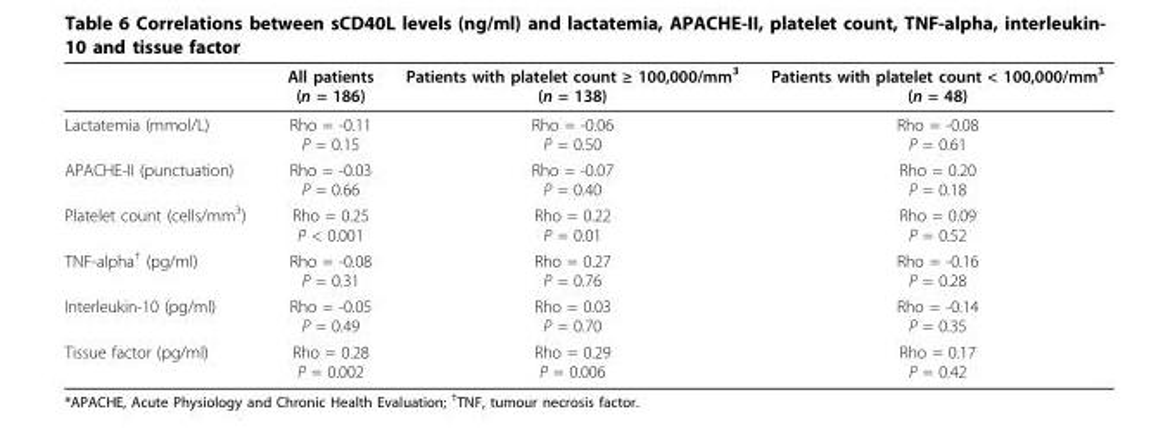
<table><thead><tr><td></td><td>All patients (n = 186)</td><td>Patients with platelet count ≥ 100,000/mm<sup>3</sup> (n = 138)</td><td>Patients with platelet count &lt; 100,000/mm<sup>3</sup> (n = 48)</td></tr></thead><tbody><tr><td>Lactatemia (mmol/L)</td><td>Rho = -0.11 P = 0.15</td><td>Rho = -0.06 P = 0.50</td><td>Rho = -0.08 P = 0.61</td></tr><tr><td>APACHE-II (punctuation)</td><td>Rho = -0.03 P = 0.66</td><td>Rho = -0.07 P = 0.40</td><td>Rho = 0.20 P = 0.18</td></tr><tr><td>Platelet count (cells/mm<sup>3</sup>)</td><td>Rho = 0.25 P &lt; 0.001</td><td>Rho = 0.22 P = 0.01</td><td>Rho = 0.09 P = 0.52</td></tr><tr><td>TNF-alpha<sup>†</sup> (pg/ml)</td><td>Rho = -0.08 P = 0.31</td><td>Rho = 0.27 P = 0.76</td><td>Rho = -0.16 P = 0.28</td></tr><tr><td>Interleukin-10 (pg/ml)</td><td>Rho = -0.05 P = 0.49</td><td>Rho = 0.03 P = 0.70</td><td>Rho = -0.14 P = 0.35</td></tr><tr><td>Tissue factor (pg/ml)</td><td>Rho = 0.28 P = 0.002</td><td>Rho = 0.29 P = 0.006</td><td>Rho = 0.17 P = 0.42</td></tr></tbody></table>